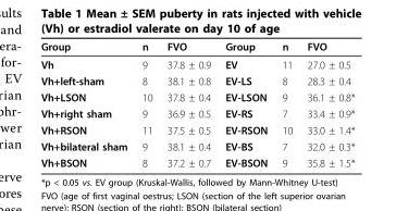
<table><thead><tr><td>Group</td><td>n</td><td>FVO</td><td>Group</td><td>n</td><td>FVO</td></tr></thead><tbody><tr><td>Vh</td><td>9</td><td>37.8 ± 0.9</td><td>EV</td><td>11</td><td>27.0 ± 0.5</td></tr><tr><td>Vh+left-sham</td><td>8</td><td>38.1 ± 0.8</td><td>EV-LS</td><td>8</td><td>28.3 ± 0.4</td></tr><tr><td>Vh+LSON</td><td>10</td><td>37.8 ± 0.4</td><td>EV-LSON</td><td>9</td><td>36.1 ± 0.8*</td></tr><tr><td>Vh+right sham</td><td>9</td><td>36.9 ± 0.5</td><td>EV-RS</td><td>7</td><td>33.4 ± 0.9*</td></tr><tr><td>Vh+RSON</td><td>11</td><td>37.5 ± 0.5</td><td>EV-RSON</td><td>10</td><td>33.0 ± 1.4*</td></tr><tr><td>Vh+bilateral sham</td><td>9</td><td>38.1 ± 0.4</td><td>EV-BS</td><td>7</td><td>32.0 ± 0.3*</td></tr><tr><td>Vh+BSON</td><td>8</td><td>37.2 ± 0.7</td><td>EV-BSON</td><td>9</td><td>35.8 ± 1.5*</td></tr></tbody></table>